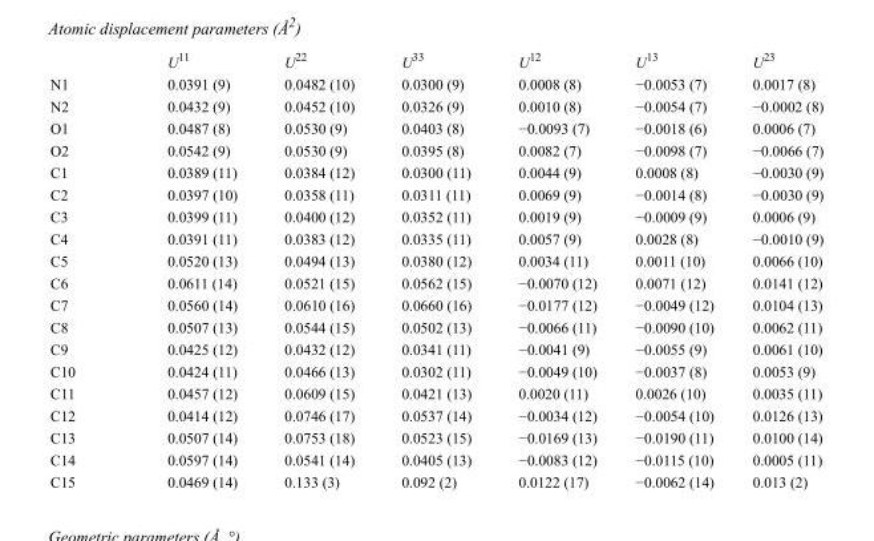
<table><thead><tr><td></td><td>U<sup>11</sup></td><td>U<sup>22</sup></td><td>U<sup>33</sup></td><td>U<sup>12</sup></td><td>U<sup>13</sup></td><td>U<sup>23</sup></td></tr></thead><tbody><tr><td>N1</td><td>0.0391 (9)</td><td>0.0482 (10)</td><td>0.0300 (9)</td><td>0.0008 (8)</td><td>−0.0053 (7)</td><td>0.0017 (8)</td></tr><tr><td>N2</td><td>0.0432 (9)</td><td>0.0452 (10)</td><td>0.0326 (9)</td><td>0.0010 (8)</td><td>−0.0054 (7)</td><td>−0.0002 (8)</td></tr><tr><td>O1</td><td>0.0487 (8)</td><td>0.0530 (9)</td><td>0.0403 (8)</td><td>−0.0093 (7)</td><td>−0.0018 (6)</td><td>0.0006 (7)</td></tr><tr><td>O2</td><td>0.0542 (9)</td><td>0.0530 (9)</td><td>0.0395 (8)</td><td>0.0082 (7)</td><td>−0.0098 (7)</td><td>−0.0066 (7)</td></tr><tr><td>C1</td><td>0.0389 (11)</td><td>0.0384 (12)</td><td>0.0300 (11)</td><td>0.0044 (9)</td><td>0.0008 (8)</td><td>−0.0030 (9)</td></tr><tr><td>C2</td><td>0.0397 (10)</td><td>0.0358 (11)</td><td>0.0311 (11)</td><td>0.0069 (9)</td><td>−0.0014 (8)</td><td>−0.0030 (9)</td></tr><tr><td>C3</td><td>0.0399 (11)</td><td>0.0400 (12)</td><td>0.0352 (11)</td><td>0.0019 (9)</td><td>−0.0009 (9)</td><td>0.0006 (9)</td></tr><tr><td>C4</td><td>0.0391 (11)</td><td>0.0383 (12)</td><td>0.0335 (11)</td><td>0.0057 (9)</td><td>0.0028 (8)</td><td>−0.0010 (9)</td></tr><tr><td>C5</td><td>0.0520 (13)</td><td>0.0494 (13)</td><td>0.0380 (12)</td><td>0.0034 (11)</td><td>0.0011 (10)</td><td>0.0066 (10)</td></tr><tr><td>C6</td><td>0.0611 (14)</td><td>0.0521 (15)</td><td>0.0562 (15)</td><td>−0.0070 (12)</td><td>0.0071 (12)</td><td>0.0141 (12)</td></tr><tr><td>C7</td><td>0.0560 (14)</td><td>0.0610 (16)</td><td>0.0660 (16)</td><td>−0.0177 (12)</td><td>−0.0049 (12)</td><td>0.0104 (13)</td></tr><tr><td>C8</td><td>0.0507 (13)</td><td>0.0544 (15)</td><td>0.0502 (13)</td><td>−0.0066 (11)</td><td>−0.0090 (10)</td><td>0.0062 (11)</td></tr><tr><td>C9</td><td>0.0425 (12)</td><td>0.0432 (12)</td><td>0.0341 (11)</td><td>−0.0041 (9)</td><td>−0.0055 (9)</td><td>0.0061 (10)</td></tr><tr><td>C10</td><td>0.0424 (11)</td><td>0.0466 (13)</td><td>0.0302 (11)</td><td>−0.0049 (10)</td><td>−0.0037 (8)</td><td>0.0053 (9)</td></tr><tr><td>C11</td><td>0.0457 (12)</td><td>0.0609 (15)</td><td>0.0421 (13)</td><td>0.0020 (11)</td><td>0.0026 (10)</td><td>0.0035 (11)</td></tr><tr><td>C12</td><td>0.0414 (12)</td><td>0.0746 (17)</td><td>0.0537 (14)</td><td>−0.0034 (12)</td><td>−0.0054 (10)</td><td>0.0126 (13)</td></tr><tr><td>C13</td><td>0.0507 (14)</td><td>0.0753 (18)</td><td>0.0523 (15)</td><td>−0.0169 (13)</td><td>−0.0190 (11)</td><td>0.0100 (14)</td></tr><tr><td>C14</td><td>0.0597 (14)</td><td>0.0541 (14)</td><td>0.0405 (13)</td><td>−0.0083 (12)</td><td>−0.0115 (10)</td><td>0.0005 (11)</td></tr><tr><td>C15</td><td>0.0469 (14)</td><td>0.133 (3)</td><td>0.092 (2)</td><td>0.0122 (17)</td><td>−0.0062 (14)</td><td>0.013 (2)</td></tr></tbody></table>